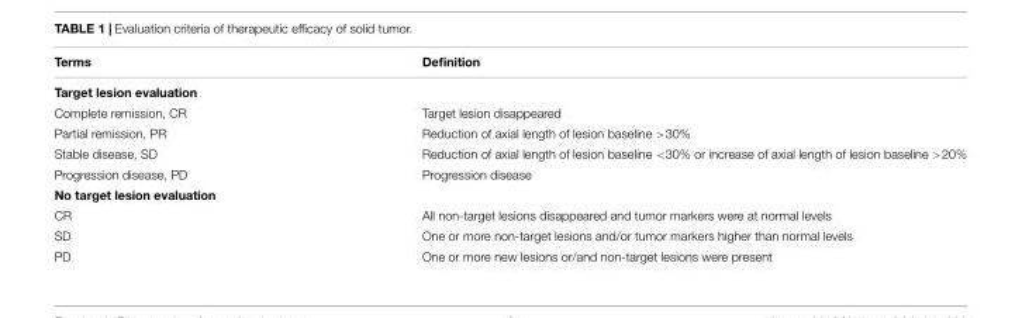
<table><thead><tr><td>Terms</td><td>Definition</td></tr></thead><tbody><tr><td colspan="2">Target lesion evaluation</td></tr><tr><td>Complete remission, CR</td><td>Target lesion disappeared</td></tr><tr><td>Partial remission, PR</td><td>Reduction of axial length of lesion baseline &gt;30%</td></tr><tr><td>Stable disease, SD</td><td>Reduction of axial length of lesion baseline &lt;30% or increase of axial length of lesion baseline &gt;20%</td></tr><tr><td>Progression disease, PD</td><td>Progression disease</td></tr><tr><td colspan="2">No target lesion evaluation</td></tr><tr><td>CR</td><td>All non-target lesions disappeared and tumor markers were at normal levels</td></tr><tr><td>SD</td><td>One or more non-target lesions and/or tumor markers higher than normal levels</td></tr><tr><td>PD</td><td>One or more new lesions or/and non-target lesions were present</td></tr></tbody></table>